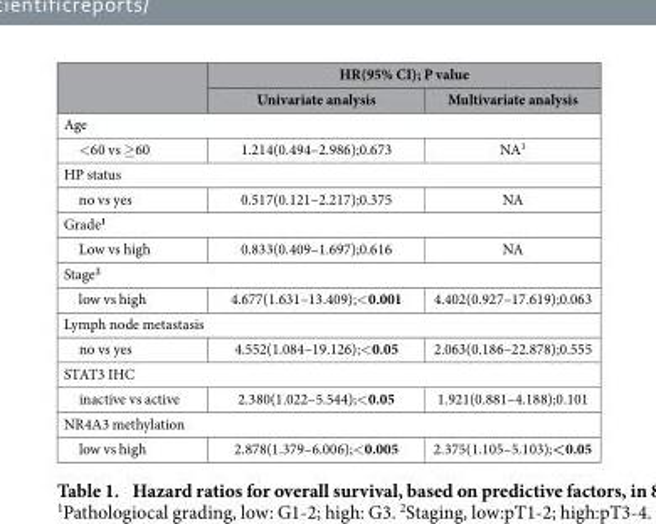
<table><thead><tr><td rowspan="2"></td><td colspan="2">HR(95% CI); P value</td></tr><tr><td>Univariate analysis</td><td>Multivariate analysis</td></tr></thead><tbody><tr><td colspan="3">Age</td></tr><tr><td>&lt;60 vs ≥60</td><td>1.214(0.494–2.986);0.673</td><td>NA<sup>3</sup></td></tr><tr><td colspan="3">HP status</td></tr><tr><td>no vs yes</td><td>0.517(0.121–2.217);0.375</td><td>NA</td></tr><tr><td colspan="3">Grade<sup>1</sup></td></tr><tr><td>Low vs high</td><td>0.833(0.409–1.697);0.616</td><td>NA</td></tr><tr><td colspan="3">Stage<sup>2</sup></td></tr><tr><td>low vs high</td><td>4.677(1.631–13.409);&lt;0.001</td><td>4.402(0.927–17.619);0.063</td></tr><tr><td colspan="3">Lymph node metastasis</td></tr><tr><td>no vs yes</td><td>4.552(1.084–19.126);&lt;0.05</td><td>2.063(0.186–22.878);0.555</td></tr><tr><td colspan="3">STAT3 IHC</td></tr><tr><td>inactive vs active</td><td>2.380(1.022–5.544);&lt;0.05</td><td>1.921(0.881–4.188);0.101</td></tr><tr><td colspan="3">NR4A3 methylation</td></tr><tr><td>low vs high</td><td>2.878(1.379–6.006);&lt;0.005</td><td>2.375(1.105–5.103);&lt;0.05</td></tr></tbody></table>